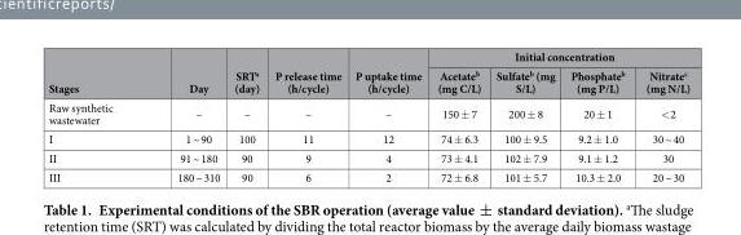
<table><thead><tr><td rowspan="2">Stages</td><td rowspan="2">Day</td><td rowspan="2">SRT<sup>a</sup> (day)</td><td rowspan="2">P release time (h/cycle)</td><td rowspan="2">P uptake time (h/cycle)</td><td colspan="4">Initial concentration</td></tr><tr><td>Acetate<sup>b</sup> (mg C/L)</td><td>Sulfate<sup>b</sup> (mg S/L)</td><td>Phosphate<sup>b</sup> (mg P/L)</td><td>Nitrate<sup>c</sup> (mg N/L)</td></tr></thead><tbody><tr><td>Raw synthetic wastewater</td><td>–</td><td>–</td><td>–</td><td>–</td><td>150 ± 7</td><td>200 ± 8</td><td>20 ± 1</td><td>&lt; 2</td></tr><tr><td>I</td><td>1 ~ 90</td><td>100</td><td>11</td><td>12</td><td>74 ± 6.3</td><td>100 ± 9.5</td><td>9.2 ± 1.0</td><td>30 ~ 40</td></tr><tr><td>II</td><td>91 ~ 180</td><td>90</td><td>9</td><td>4</td><td>73 ± 4.1</td><td>102 ± 7.9</td><td>9.1 ± 1.2</td><td>30</td></tr><tr><td>III</td><td>180 ~ 310</td><td>90</td><td>6</td><td>2</td><td>72 ± 6.8</td><td>101 ± 5.7</td><td>10.3 ± 2.0</td><td>20 ~ 30</td></tr></tbody></table>